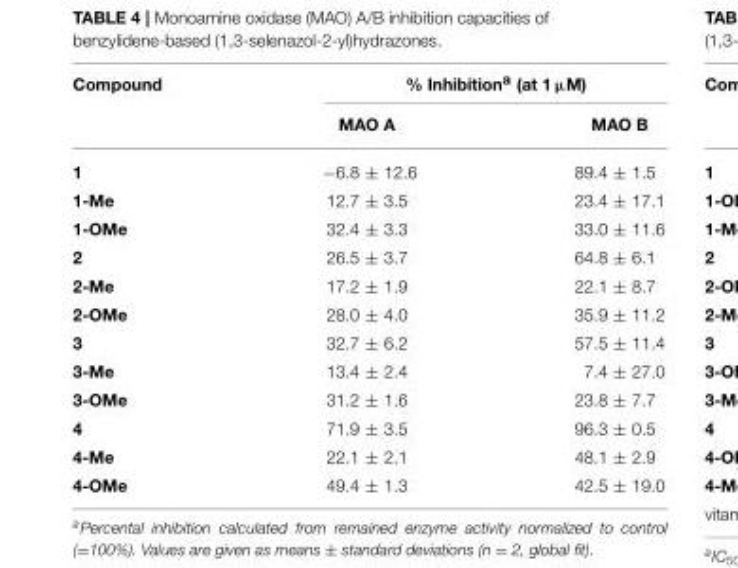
<table><thead><tr><td rowspan="2">Compound</td><td colspan="2">% Inhibition<sup>a</sup> (at 1 µM)</td></tr><tr><td>MAO A</td><td>MAO B</td></tr></thead><tbody><tr><td>1</td><td>−6.8 ± 12.6</td><td>89.4 ± 1.5</td></tr><tr><td>1-Me</td><td>12.7 ± 3.5</td><td>23.4 ± 17.1</td></tr><tr><td>1-OMe</td><td>32.4 ± 3.3</td><td>33.0 ± 11.6</td></tr><tr><td>2</td><td>26.5 ± 3.7</td><td>64.8 ± 6.1</td></tr><tr><td>2-Me</td><td>17.2 ± 1.9</td><td>22.1 ± 8.7</td></tr><tr><td>2-OMe</td><td>28.0 ± 4.0</td><td>35.9 ± 11.2</td></tr><tr><td>3</td><td>32.7 ± 6.2</td><td>57.5 ± 11.4</td></tr><tr><td>3-Me</td><td>13.4 ± 2.4</td><td>7.4 ± 27.0</td></tr><tr><td>3-OMe</td><td>31.2 ± 1.6</td><td>23.8 ± 7.7</td></tr><tr><td>4</td><td>71.9 ± 3.5</td><td>96.3 ± 0.5</td></tr><tr><td>4-Me</td><td>22.1 ± 2.1</td><td>48.1 ± 2.9</td></tr><tr><td>4-OMe</td><td>49.4 ± 1.3</td><td>42.5 ± 19.0</td></tr></tbody></table>